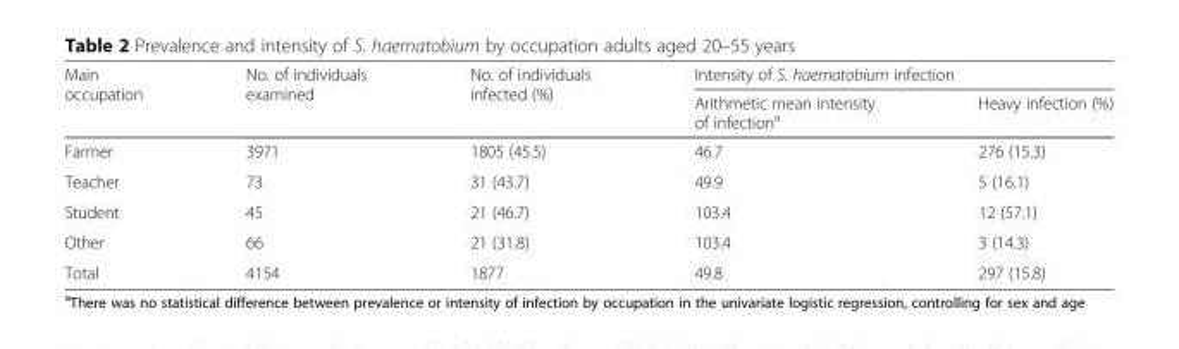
<table><thead><tr><td rowspan="2">Main occupation</td><td rowspan="2">No. of individuals examined</td><td rowspan="2">No. of individuals infected (%)</td><td colspan="2">Intensity of S. haematobium infection</td></tr><tr><td>Arithmetic mean intensity of infection<sup>a</sup></td><td>Heavy infection (%)</td></tr></thead><tbody><tr><td>Farmer</td><td>3971</td><td>1805 (45.5)</td><td>46.7</td><td>276 (15.3)</td></tr><tr><td>Teacher</td><td>73</td><td>31 (43.7)</td><td>49.9</td><td>5 (16.1)</td></tr><tr><td>Student</td><td>45</td><td>21 (46.7)</td><td>103.4</td><td>12 (57.1)</td></tr><tr><td>Other</td><td>66</td><td>21 (31.8)</td><td>103.4</td><td>3 (14.3)</td></tr><tr><td>Total</td><td>4154</td><td>1877</td><td>49.8</td><td>297 (15.8)</td></tr></tbody></table>